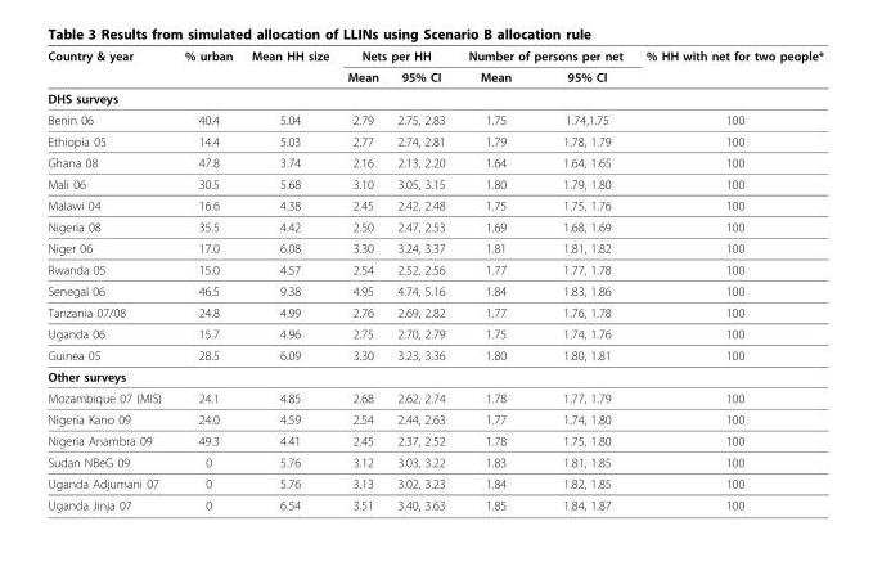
<table><thead><tr><td rowspan="2">Country &amp; year</td><td rowspan="2">% urban</td><td rowspan="2">Mean HH size</td><td colspan="2">Nets per HH</td><td colspan="2">Number of persons per net</td><td rowspan="2">% HH with net for two people*</td></tr><tr><td>Mean</td><td>95% CI</td><td>Mean</td><td>95% CI</td></tr></thead><tbody><tr><td colspan="8">DHS surveys</td></tr><tr><td>Benin 06</td><td>40.4</td><td>5.04</td><td>2.79</td><td>2.75, 2.83</td><td>1.75</td><td>1.74,1.75</td><td>100</td></tr><tr><td>Ethiopia 05</td><td>14.4</td><td>5.03</td><td>2.77</td><td>2.74, 2.81</td><td>1.79</td><td>1.78, 1.79</td><td>100</td></tr><tr><td>Ghana 08</td><td>47.8</td><td>3.74</td><td>2.16</td><td>2.13, 2.20</td><td>1.64</td><td>1.64, 1.65</td><td>100</td></tr><tr><td>Mali 06</td><td>30.5</td><td>5.68</td><td>3.10</td><td>3.05, 3.15</td><td>1.80</td><td>1.79, 1.80</td><td>100</td></tr><tr><td>Malawi 04</td><td>16.6</td><td>4.38</td><td>2.45</td><td>2.42, 2.48</td><td>1.75</td><td>1.75, 1.76</td><td>100</td></tr><tr><td>Nigeria 08</td><td>35.5</td><td>4.42</td><td>2.50</td><td>2.47, 2.53</td><td>1.69</td><td>1.68, 1.69</td><td>100</td></tr><tr><td>Niger 06</td><td>17.0</td><td>6.08</td><td>3.30</td><td>3.24, 3.37</td><td>1.81</td><td>1.81, 1.82</td><td>100</td></tr><tr><td>Rwanda 05</td><td>15.0</td><td>4.57</td><td>2.54</td><td>2.52, 2.56</td><td>1.77</td><td>1.77, 1.78</td><td>100</td></tr><tr><td>Senegal 06</td><td>46.5</td><td>9.38</td><td>4.95</td><td>4.74, 5.16</td><td>1.84</td><td>1.83, 1.86</td><td>100</td></tr><tr><td>Tanzania 07/08</td><td>24.8</td><td>4.99</td><td>2.76</td><td>2.69, 2.82</td><td>1.77</td><td>1.76, 1.78</td><td>100</td></tr><tr><td>Uganda 06</td><td>15.7</td><td>4.96</td><td>2.75</td><td>2.70, 2.79</td><td>1.75</td><td>1.74, 1.76</td><td>100</td></tr><tr><td>Guinea 05</td><td>28.5</td><td>6.09</td><td>3.30</td><td>3.23, 3.36</td><td>1.80</td><td>1.80, 1.81</td><td>100</td></tr><tr><td colspan="8">Other surveys</td></tr><tr><td>Mozambique 07 (MIS)</td><td>24.1</td><td>4.85</td><td>2.68</td><td>2.62, 2.74</td><td>1.78</td><td>1.77, 1.79</td><td>100</td></tr><tr><td>Nigeria Kano 09</td><td>24.0</td><td>4.59</td><td>2.54</td><td>2.44, 2.63</td><td>1.77</td><td>1.74, 1.80</td><td>100</td></tr><tr><td>Nigeria Anambra 09</td><td>49.3</td><td>4.41</td><td>2.45</td><td>2.37, 2.52</td><td>1.78</td><td>1.75, 1.80</td><td>100</td></tr><tr><td>Sudan NBeG 09</td><td>0</td><td>5.76</td><td>3.12</td><td>3.03, 3.22</td><td>1.83</td><td>1.81, 1.85</td><td>100</td></tr><tr><td>Uganda Adjumani 07</td><td>0</td><td>5.76</td><td>3.13</td><td>3.02, 3.23</td><td>1.84</td><td>1.82, 1.85</td><td>100</td></tr><tr><td>Uganda Jinja 07</td><td>0</td><td>6.54</td><td>3.51</td><td>3.40, 3.63</td><td>1.85</td><td>1.84, 1.87</td><td>100</td></tr></tbody></table>